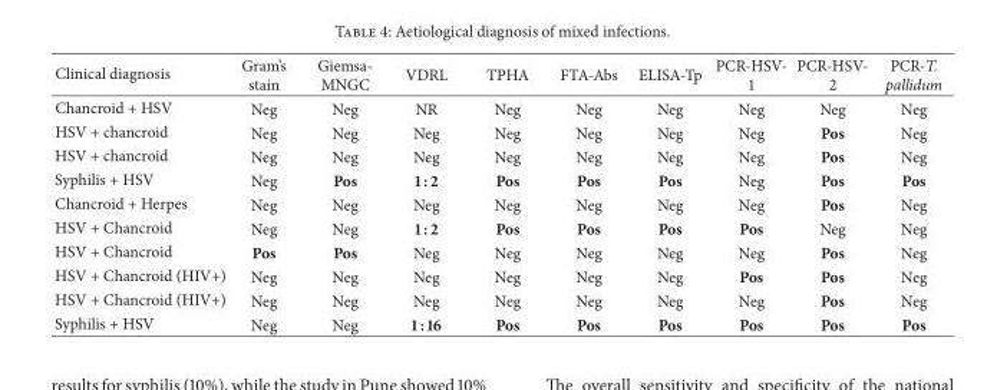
<table><thead><tr><td>Clinical diagnosis</td><td>Gram’s stain</td><td>Giemsa- MNGC</td><td>VDRL</td><td>TPHA</td><td>FTA-Abs</td><td>ELISA-Tp</td><td>PCR-HSV- 1</td><td>PCR-HSV- 2</td><td>PCR-T. pallidum</td></tr></thead><tbody><tr><td>Chancroid + HSV</td><td>Neg</td><td>Neg</td><td>NR</td><td>Neg</td><td>Neg</td><td>Neg</td><td>Neg</td><td>Neg</td><td>Neg</td></tr><tr><td>HSV + chancroid</td><td>Neg</td><td>Neg</td><td>Neg</td><td>Neg</td><td>Neg</td><td>Neg</td><td>Neg</td><td>Pos</td><td>Neg</td></tr><tr><td>HSV + chancroid</td><td>Neg</td><td>Neg</td><td>Neg</td><td>Neg</td><td>Neg</td><td>Neg</td><td>Neg</td><td>Pos</td><td>Neg</td></tr><tr><td>Syphilis + HSV</td><td>Neg</td><td>Pos</td><td>1 : 2</td><td>Pos</td><td>Pos</td><td>Pos</td><td>Neg</td><td>Pos</td><td>Pos</td></tr><tr><td>Chancroid + Herpes</td><td>Neg</td><td>Neg</td><td>Neg</td><td>Neg</td><td>Neg</td><td>Neg</td><td>Neg</td><td>Pos</td><td>Neg</td></tr><tr><td>HSV + Chancroid</td><td>Neg</td><td>Neg</td><td>1 : 2</td><td>Pos</td><td>Pos</td><td>Pos</td><td>Pos</td><td>Neg</td><td>Neg</td></tr><tr><td>HSV + Chancroid</td><td>Pos</td><td>Pos</td><td>Neg</td><td>Neg</td><td>Neg</td><td>Neg</td><td>Neg</td><td>Pos</td><td>Neg</td></tr><tr><td>HSV + Chancroid (HIV+)</td><td>Neg</td><td>Neg</td><td>Neg</td><td>Neg</td><td>Neg</td><td>Neg</td><td>Pos</td><td>Pos</td><td>Neg</td></tr><tr><td>HSV + Chancroid (HIV+)</td><td>Neg</td><td>Neg</td><td>Neg</td><td>Neg</td><td>Neg</td><td>Neg</td><td>Neg</td><td>Pos</td><td>Neg</td></tr><tr><td>Syphilis + HSV</td><td>Neg</td><td>Neg</td><td>1 : 16</td><td>Pos</td><td>Pos</td><td>Pos</td><td>Pos</td><td>Pos</td><td>Pos</td></tr></tbody></table>